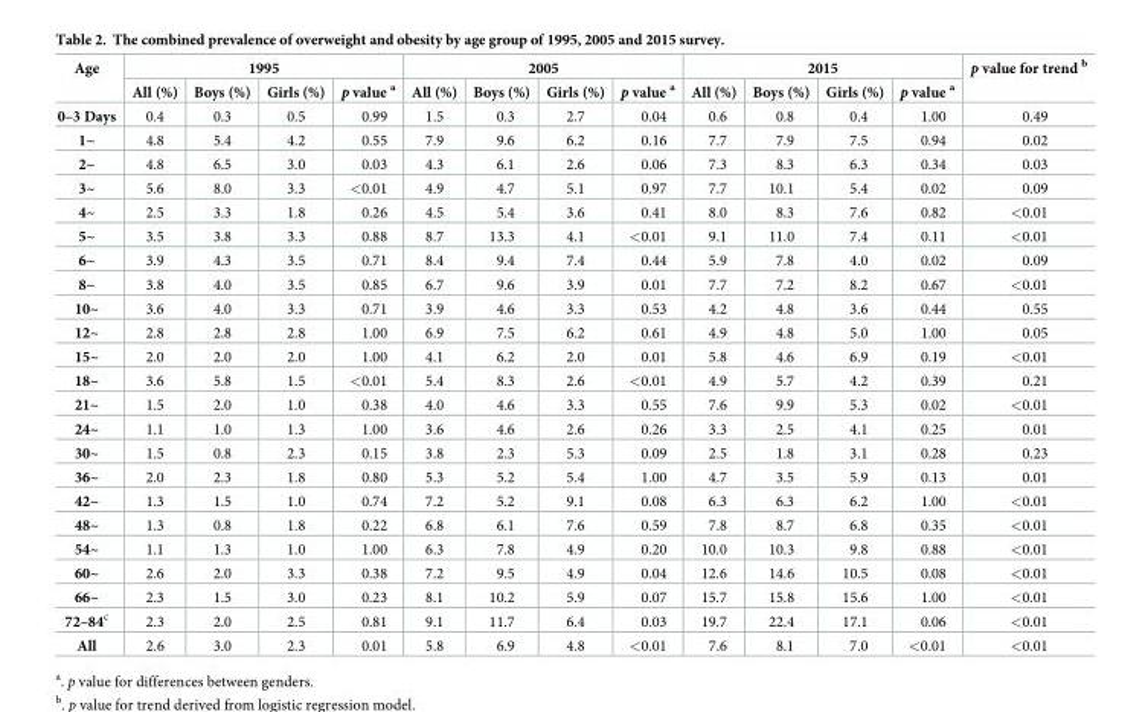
<table><thead><tr><td rowspan="2">Age</td><td colspan="4">1995</td><td colspan="4">2005</td><td colspan="4">2015</td><td rowspan="2">p value for trend <sup>b</sup></td></tr><tr><td>All (%)</td><td>Boys (%)</td><td>Girls (%)</td><td>p value <sup>a</sup></td><td>All (%)</td><td>Boys (%)</td><td>Girls (%)</td><td>p value <sup>a</sup></td><td>All (%)</td><td>Boys (%)</td><td>Girls (%)</td><td>p value <sup>a</sup></td></tr></thead><tbody><tr><td>0–3 Days</td><td>0.4</td><td>0.3</td><td>0.5</td><td>0.99</td><td>1.5</td><td>0.3</td><td>2.7</td><td>0.04</td><td>0.6</td><td>0.8</td><td>0.4</td><td>1.00</td><td>0.49</td></tr><tr><td>1~</td><td>4.8</td><td>5.4</td><td>4.2</td><td>0.55</td><td>7.9</td><td>9.6</td><td>6.2</td><td>0.16</td><td>7.7</td><td>7.9</td><td>7.5</td><td>0.94</td><td>0.02</td></tr><tr><td>2~</td><td>4.8</td><td>6.5</td><td>3.0</td><td>0.03</td><td>4.3</td><td>6.1</td><td>2.6</td><td>0.06</td><td>7.3</td><td>8.3</td><td>6.3</td><td>0.34</td><td>0.03</td></tr><tr><td>3~</td><td>5.6</td><td>8.0</td><td>3.3</td><td>&lt;0.01</td><td>4.9</td><td>4.7</td><td>5.1</td><td>0.97</td><td>7.7</td><td>10.1</td><td>5.4</td><td>0.02</td><td>0.09</td></tr><tr><td>4~</td><td>2.5</td><td>3.3</td><td>1.8</td><td>0.26</td><td>4.5</td><td>5.4</td><td>3.6</td><td>0.41</td><td>8.0</td><td>8.3</td><td>7.6</td><td>0.82</td><td>&lt;0.01</td></tr><tr><td>5~</td><td>3.5</td><td>3.8</td><td>3.3</td><td>0.88</td><td>8.7</td><td>13.3</td><td>4.1</td><td>&lt;0.01</td><td>9.1</td><td>11.0</td><td>7.4</td><td>0.11</td><td>&lt;0.01</td></tr><tr><td>6~</td><td>3.9</td><td>4.3</td><td>3.5</td><td>0.71</td><td>8.4</td><td>9.4</td><td>7.4</td><td>0.44</td><td>5.9</td><td>7.8</td><td>4.0</td><td>0.02</td><td>0.09</td></tr><tr><td>8~</td><td>3.8</td><td>4.0</td><td>3.5</td><td>0.85</td><td>6.7</td><td>9.6</td><td>3.9</td><td>0.01</td><td>7.7</td><td>7.2</td><td>8.2</td><td>0.67</td><td>&lt;0.01</td></tr><tr><td>10~</td><td>3.6</td><td>4.0</td><td>3.3</td><td>0.71</td><td>3.9</td><td>4.6</td><td>3.3</td><td>0.53</td><td>4.2</td><td>4.8</td><td>3.6</td><td>0.44</td><td>0.55</td></tr><tr><td>12~</td><td>2.8</td><td>2.8</td><td>2.8</td><td>1.00</td><td>6.9</td><td>7.5</td><td>6.2</td><td>0.61</td><td>4.9</td><td>4.8</td><td>5.0</td><td>1.00</td><td>0.05</td></tr><tr><td>15~</td><td>2.0</td><td>2.0</td><td>2.0</td><td>1.00</td><td>4.1</td><td>6.2</td><td>2.0</td><td>0.01</td><td>5.8</td><td>4.6</td><td>6.9</td><td>0.19</td><td>&lt;0.01</td></tr><tr><td>18~</td><td>3.6</td><td>5.8</td><td>1.5</td><td>&lt;0.01</td><td>5.4</td><td>8.3</td><td>2.6</td><td>&lt;0.01</td><td>4.9</td><td>5.7</td><td>4.2</td><td>0.39</td><td>0.21</td></tr><tr><td>21~</td><td>1.5</td><td>2.0</td><td>1.0</td><td>0.38</td><td>4.0</td><td>4.6</td><td>3.3</td><td>0.55</td><td>7.6</td><td>9.9</td><td>5.3</td><td>0.02</td><td>&lt;0.01</td></tr><tr><td>24~</td><td>1.1</td><td>1.0</td><td>1.3</td><td>1.00</td><td>3.6</td><td>4.6</td><td>2.6</td><td>0.26</td><td>3.3</td><td>2.5</td><td>4.1</td><td>0.25</td><td>0.01</td></tr><tr><td>30~</td><td>1.5</td><td>0.8</td><td>2.3</td><td>0.15</td><td>3.8</td><td>2.3</td><td>5.3</td><td>0.09</td><td>2.5</td><td>1.8</td><td>3.1</td><td>0.28</td><td>0.23</td></tr><tr><td>36~</td><td>2.0</td><td>2.3</td><td>1.8</td><td>0.80</td><td>5.3</td><td>5.2</td><td>5.4</td><td>1.00</td><td>4.7</td><td>3.5</td><td>5.9</td><td>0.13</td><td>0.01</td></tr><tr><td>42~</td><td>1.3</td><td>1.5</td><td>1.0</td><td>0.74</td><td>7.2</td><td>5.2</td><td>9.1</td><td>0.08</td><td>6.3</td><td>6.3</td><td>6.2</td><td>1.00</td><td>&lt;0.01</td></tr><tr><td>48~</td><td>1.3</td><td>0.8</td><td>1.8</td><td>0.22</td><td>6.8</td><td>6.1</td><td>7.6</td><td>0.59</td><td>7.8</td><td>8.7</td><td>6.8</td><td>0.35</td><td>&lt;0.01</td></tr><tr><td>54~</td><td>1.1</td><td>1.3</td><td>1.0</td><td>1.00</td><td>6.3</td><td>7.8</td><td>4.9</td><td>0.20</td><td>10.0</td><td>10.3</td><td>9.8</td><td>0.88</td><td>&lt;0.01</td></tr><tr><td>60~</td><td>2.6</td><td>2.0</td><td>3.3</td><td>0.38</td><td>7.2</td><td>9.5</td><td>4.9</td><td>0.04</td><td>12.6</td><td>14.6</td><td>10.5</td><td>0.08</td><td>&lt;0.01</td></tr><tr><td>66~</td><td>2.3</td><td>1.5</td><td>3.0</td><td>0.23</td><td>8.1</td><td>10.2</td><td>5.9</td><td>0.07</td><td>15.7</td><td>15.8</td><td>15.6</td><td>1.00</td><td>&lt;0.01</td></tr><tr><td>72–84<sup>c</sup></td><td>2.3</td><td>2.0</td><td>2.5</td><td>0.81</td><td>9.1</td><td>11.7</td><td>6.4</td><td>0.03</td><td>19.7</td><td>22.4</td><td>17.1</td><td>0.06</td><td>&lt;0.01</td></tr><tr><td>All</td><td>2.6</td><td>3.0</td><td>2.3</td><td>0.01</td><td>5.8</td><td>6.9</td><td>4.8</td><td>&lt;0.01</td><td>7.6</td><td>8.1</td><td>7.0</td><td>&lt;0.01</td><td>&lt;0.01</td></tr></tbody></table>